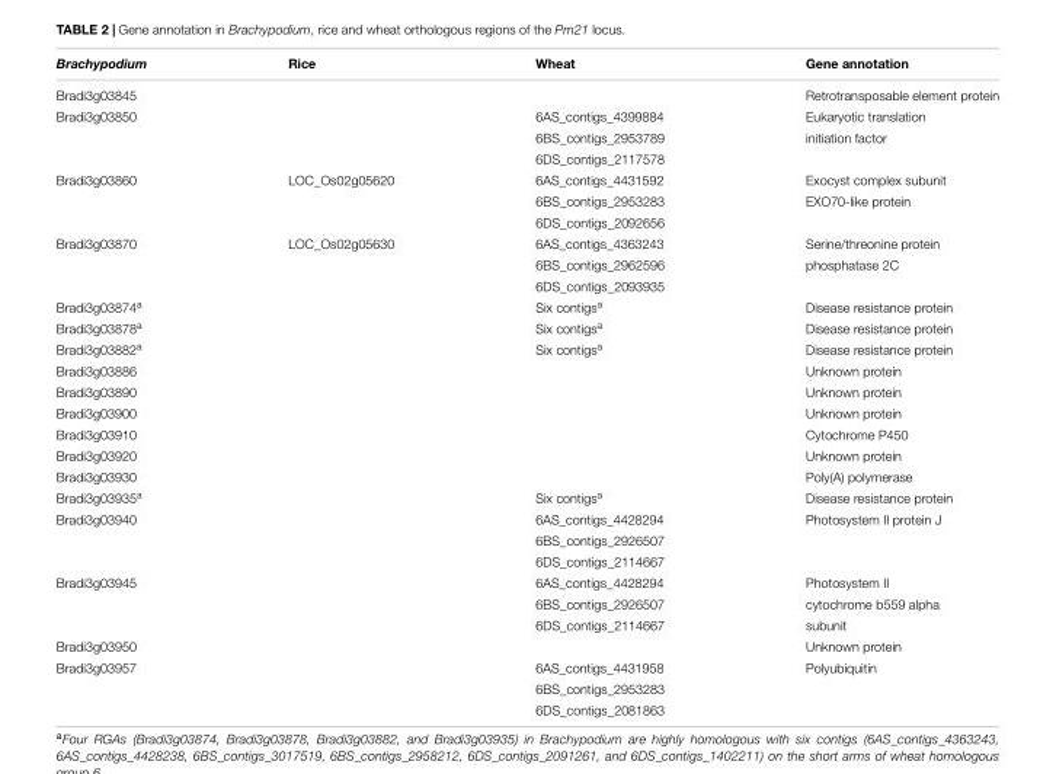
<table><thead><tr><td>Brachypodium</td><td>Rice</td><td>Wheat</td><td>Gene annotation</td></tr></thead><tbody><tr><td>Bradi3g03845</td><td></td><td></td><td>Retrotransposable element protein</td></tr><tr><td rowspan="3">Bradi3g03850</td><td></td><td>6AS_contigs_4399884</td><td>Eukaryotic translation</td></tr><tr><td></td><td>6BS_contigs_2953789</td><td>initiation factor</td></tr><tr><td></td><td>6DS_contigs_2117578</td><td></td></tr><tr><td rowspan="3">Bradi3g03860</td><td>LOC_Os02g05620</td><td>6AS_contigs_4431592</td><td>Exocyst complex subunit</td></tr><tr><td></td><td>6BS_contigs_2953283</td><td>EXO70-like protein</td></tr><tr><td></td><td>6DS_contigs_2092656</td><td></td></tr><tr><td rowspan="3">Bradi3g03870</td><td>LOC_Os02g05630</td><td>6AS_contigs_4363243</td><td>Serine/threonine protein</td></tr><tr><td></td><td>6BS_contigs_2962596</td><td>phosphatase 2C</td></tr><tr><td></td><td>6DS_contigs_2093935</td><td></td></tr><tr><td>Bradi3g03874<sup>a</sup></td><td></td><td>Six contigs<sup>a</sup></td><td>Disease resistance protein</td></tr><tr><td>Bradi3g03878<sup>a</sup></td><td></td><td>Six contigs<sup>a</sup></td><td>Disease resistance protein</td></tr><tr><td>Bradi3g03882<sup>a</sup></td><td></td><td>Six contigs<sup>a</sup></td><td>Disease resistance protein</td></tr><tr><td>Bradi3g03886</td><td></td><td></td><td>Unknown protein</td></tr><tr><td>Bradi3g03890</td><td></td><td></td><td>Unknown protein</td></tr><tr><td>Bradi3g03900</td><td></td><td></td><td>Unknown protein</td></tr><tr><td>Bradi3g03910</td><td></td><td></td><td>Cytochrome P450</td></tr><tr><td>Bradi3g03920</td><td></td><td></td><td>Unknown protein</td></tr><tr><td>Bradi3g03930</td><td></td><td></td><td>Poly(A) polymerase</td></tr><tr><td>Bradi3g03935<sup>a</sup></td><td></td><td>Six contigs<sup>a</sup></td><td>Disease resistance protein</td></tr><tr><td rowspan="3">Bradi3g03940</td><td></td><td>6AS_contigs_4428294</td><td>Photosystem II protein J</td></tr><tr><td></td><td>6BS_contigs_2926507</td><td></td></tr><tr><td></td><td>6DS_contigs_2114667</td><td></td></tr><tr><td rowspan="3">Bradi3g03945</td><td></td><td>6AS_contigs_4428294</td><td>Photosystem II</td></tr><tr><td></td><td>6BS_contigs_2926507</td><td>cytochrome b559 alpha</td></tr><tr><td></td><td>6DS_contigs_2114667</td><td>subunit</td></tr><tr><td>Bradi3g03950</td><td></td><td></td><td>Unknown protein</td></tr><tr><td rowspan="3">Bradi3g03957</td><td></td><td>6AS_contigs_4431958</td><td>Polyubiquitin</td></tr><tr><td></td><td>6BS_contigs_2953283</td><td></td></tr><tr><td></td><td>6DS_contigs_2081863</td><td></td></tr></tbody></table>